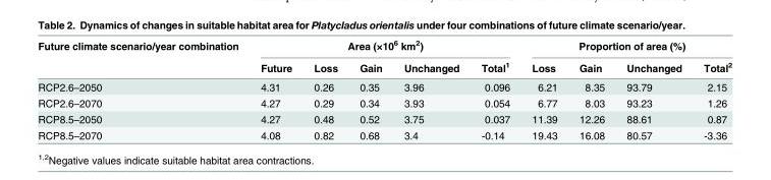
<table><thead><tr><td rowspan="2">Future climate scenario/year combination</td><td colspan="5">Area (×10<sup>6</sup> km<sup>2</sup>)</td><td colspan="4">Proportion of area (%)</td></tr><tr><td>Future</td><td>Loss</td><td>Gain</td><td>Unchanged</td><td>Total<sup>1</sup></td><td>Loss</td><td>Gain</td><td>Unchanged</td><td>Total<sup>2</sup></td></tr></thead><tbody><tr><td>RCP2.6–2050</td><td>4.31</td><td>0.26</td><td>0.35</td><td>3.96</td><td>0.096</td><td>6.21</td><td>8.35</td><td>93.79</td><td>2.15</td></tr><tr><td>RCP2.6–2070</td><td>4.27</td><td>0.29</td><td>0.34</td><td>3.93</td><td>0.054</td><td>6.77</td><td>8.03</td><td>93.23</td><td>1.26</td></tr><tr><td>RCP8.5–2050</td><td>4.27</td><td>0.48</td><td>0.52</td><td>3.75</td><td>0.037</td><td>11.39</td><td>12.26</td><td>88.61</td><td>0.87</td></tr><tr><td>RCP8.5–2070</td><td>4.08</td><td>0.82</td><td>0.68</td><td>3.4</td><td>-0.14</td><td>19.43</td><td>16.08</td><td>80.57</td><td>-3.36</td></tr></tbody></table>